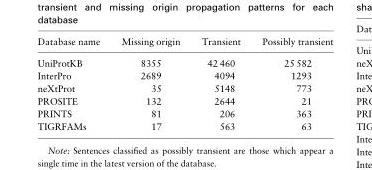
<table><thead><tr><td>Database name</td><td>Missing origin</td><td>Transient</td><td>Possibly transient</td></tr></thead><tbody><tr><td>UniProtKB</td><td>8355</td><td>42 460</td><td>25 582</td></tr><tr><td>InterPro</td><td>2689</td><td>4094</td><td>1293</td></tr><tr><td>neXtProt</td><td>35</td><td>5148</td><td>773</td></tr><tr><td>PROSITE</td><td>132</td><td>2644</td><td>21</td></tr><tr><td>PRINTS</td><td>81</td><td>206</td><td>363</td></tr><tr><td>TIGRFAMs</td><td>17</td><td>563</td><td>63</td></tr></tbody></table>